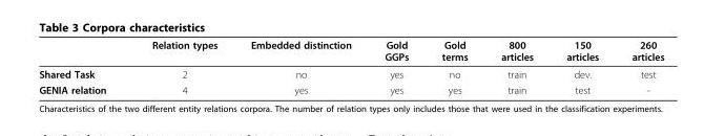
<table><thead><tr><td></td><td>Relation types</td><td>Embedded distinction</td><td>Gold GGPs</td><td>Gold terms</td><td>800 articles</td><td>150 articles</td><td>260 articles</td></tr></thead><tbody><tr><td>Shared Task</td><td>2</td><td>no</td><td>yes</td><td>no</td><td>train</td><td>dev.</td><td>test</td></tr><tr><td>GENIA relation</td><td>4</td><td>yes</td><td>yes</td><td>yes</td><td>train</td><td>test</td><td>-</td></tr></tbody></table>